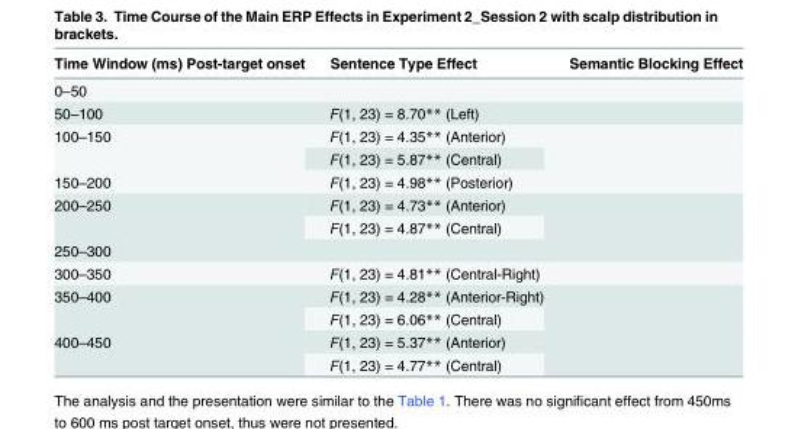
<table><thead><tr><td>Time Window (ms) Post-target onset</td><td>Sentence Type Effect</td><td>Semantic Blocking Effect</td></tr></thead><tbody><tr><td colspan="3">0–50</td></tr><tr><td>50–100</td><td>F(1, 23) = 8.70** (Left)</td><td></td></tr><tr><td rowspan="2">100–150</td><td>F(1, 23) = 4.35** (Anterior)</td><td rowspan="2"></td></tr><tr><td>F(1, 23) = 5.87** (Central)</td></tr><tr><td>150–200</td><td>F(1, 23) = 4.98** (Posterior)</td><td></td></tr><tr><td rowspan="2">200–250</td><td>F(1, 23) = 4.73** (Anterior)</td><td rowspan="2"></td></tr><tr><td>F(1, 23) = 4.87** (Central)</td></tr><tr><td colspan="3">250–300</td></tr><tr><td>300–350</td><td>F(1, 23) = 4.81** (Central-Right)</td><td></td></tr><tr><td rowspan="2">350–400</td><td>F(1, 23) = 4.28** (Anterior-Right)</td><td rowspan="2"></td></tr><tr><td>F(1, 23) = 6.06** (Central)</td></tr><tr><td rowspan="2">400–450</td><td>F(1, 23) = 5.37** (Anterior)</td><td rowspan="2"></td></tr><tr><td>F(1, 23) = 4.77** (Central)</td></tr></tbody></table>